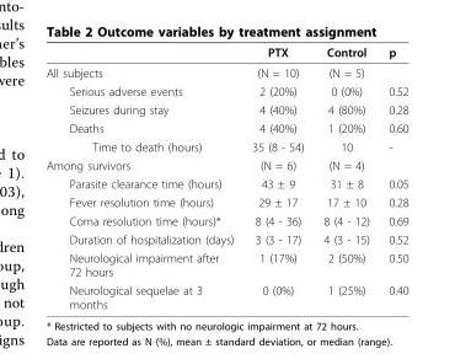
<table><thead><tr><td></td><td>PTX</td><td>Control</td><td>p</td></tr></thead><tbody><tr><td>All subjects</td><td>(N = 10)</td><td>(N = 5)</td><td></td></tr><tr><td>Serious adverse events</td><td>2 (20%)</td><td>0 (0%)</td><td>0.52</td></tr><tr><td>Seizures during stay</td><td>4 (40%)</td><td>4 (80%)</td><td>0.28</td></tr><tr><td>Deaths</td><td>4 (40%)</td><td>1 (20%)</td><td>0.60</td></tr><tr><td>Time to death (hours)</td><td>35 (8 - 54)</td><td>10</td><td>-</td></tr><tr><td>Among survivors</td><td>(N = 6)</td><td>(N = 4)</td><td></td></tr><tr><td>Parasite clearance time (hours)</td><td>43 ± 9</td><td>31 ± 8</td><td>0.05</td></tr><tr><td>Fever resolution time (hours)</td><td>29 ± 17</td><td>17 ± 10</td><td>0.28</td></tr><tr><td>Coma resolution time (hours)*</td><td>8 (4 - 36)</td><td>8 (4 - 12)</td><td>0.69</td></tr><tr><td>Duration of hospitalization (days)</td><td>3 (3 - 17)</td><td>4 (3 - 15)</td><td>0.52</td></tr><tr><td>Neurological impairment after 72 hours</td><td>1 (17%)</td><td>2 (50%)</td><td>0.50</td></tr><tr><td>Neurological sequelae at 3 months</td><td>0 (0%)</td><td>1 (25%)</td><td>0.40</td></tr></tbody></table>